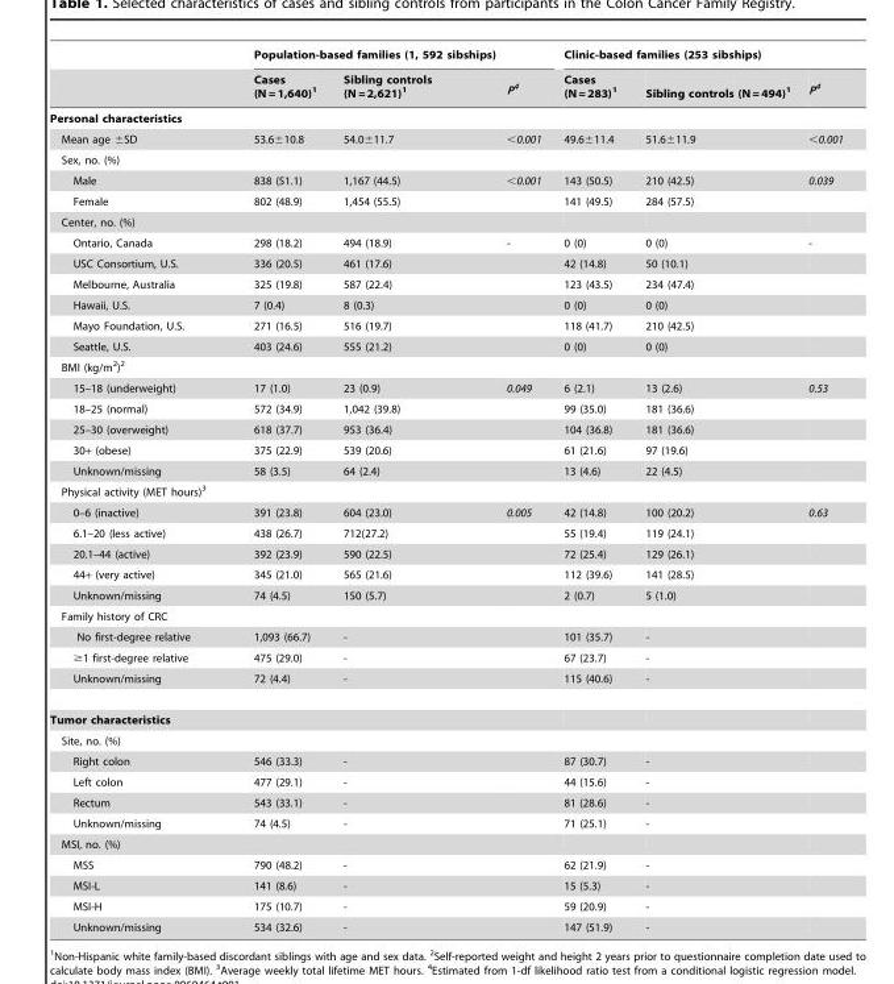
<table><thead><tr><td rowspan="2"></td><td colspan="3">Population-based families (1, 592 sibships)</td><td colspan="3">Clinic-based families (253 sibships)</td></tr><tr><td>Cases (N = 1,640)<sup>1</sup></td><td>Sibling controls (N = 2,621)<sup>1</sup></td><td>P<sup>4</sup></td><td>Cases (N = 283)<sup>1</sup></td><td>Sibling controls (N = 494)<sup>1</sup></td><td>P<sup>4</sup></td></tr></thead><tbody><tr><td colspan="7">Personal characteristics</td></tr><tr><td>Mean age ±SD</td><td>53.6±10.8</td><td>54.0±11.7</td><td>&lt;0.001</td><td>49.6±11.4</td><td>51.6±11.9</td><td>&lt;0.001</td></tr><tr><td colspan="7">Sex, no. (%)</td></tr><tr><td>Male</td><td>838 (51.1)</td><td>1,167 (44.5)</td><td>&lt;0.001</td><td>143 (50.5)</td><td>210 (42.5)</td><td>0.039</td></tr><tr><td>Female</td><td>802 (48.9)</td><td>1,454 (55.5)</td><td></td><td>141 (49.5)</td><td>284 (57.5)</td><td></td></tr><tr><td colspan="7">Center, no. (%)</td></tr><tr><td>Ontario, Canada</td><td>298 (18.2)</td><td>494 (18.9)</td><td>-</td><td>0 (0)</td><td>0 (0)</td><td>-</td></tr><tr><td>USC Consortium, U.S.</td><td>336 (20.5)</td><td>461 (17.6)</td><td></td><td>42 (14.8)</td><td>50 (10.1)</td><td></td></tr><tr><td>Melbourne, Australia</td><td>325 (19.8)</td><td>587 (22.4)</td><td></td><td>123 (43.5)</td><td>234 (47.4)</td><td></td></tr><tr><td>Hawaii, U.S.</td><td>7 (0.4)</td><td>8 (0.3)</td><td></td><td>0 (0)</td><td>0 (0)</td><td></td></tr><tr><td>Mayo Foundation, U.S.</td><td>271 (16.5)</td><td>516 (19.7)</td><td></td><td>118 (41.7)</td><td>210 (42.5)</td><td></td></tr><tr><td>Seattle, U.S.</td><td>403 (24.6)</td><td>555 (21.2)</td><td></td><td>0 (0)</td><td>0 (0)</td><td></td></tr><tr><td colspan="7">BMI (kg/m<sup>2</sup>)<sup>2</sup></td></tr><tr><td>15–18 (underweight)</td><td>17 (1.0)</td><td>23 (0.9)</td><td>0.049</td><td>6 (2.1)</td><td>13 (2.6)</td><td>0.53</td></tr><tr><td>18–25 (normal)</td><td>572 (34.9)</td><td>1,042 (39.8)</td><td></td><td>99 (35.0)</td><td>181 (36.6)</td><td></td></tr><tr><td>25–30 (overweight)</td><td>618 (37.7)</td><td>953 (36.4)</td><td></td><td>104 (36.8)</td><td>181 (36.6)</td><td></td></tr><tr><td>30+ (obese)</td><td>375 (22.9)</td><td>539 (20.6)</td><td></td><td>61 (21.6)</td><td>97 (19.6)</td><td></td></tr><tr><td>Unknown/missing</td><td>58 (3.5)</td><td>64 (2.4)</td><td></td><td>13 (4.6)</td><td>22 (4.5)</td><td></td></tr><tr><td colspan="7">Physical activity (MET hours)<sup>3</sup></td></tr><tr><td>0–6 (inactive)</td><td>391 (23.8)</td><td>604 (23.0)</td><td>0.005</td><td>42 (14.8)</td><td>100 (20.2)</td><td>0.63</td></tr><tr><td>6.1–20 (less active)</td><td>438 (26.7)</td><td>712(27.2)</td><td></td><td>55 (19.4)</td><td>119 (24.1)</td><td></td></tr><tr><td>20.1–44 (active)</td><td>392 (23.9)</td><td>590 (22.5)</td><td></td><td>72 (25.4)</td><td>129 (26.1)</td><td></td></tr><tr><td>44+ (very active)</td><td>345 (21.0)</td><td>565 (21.6)</td><td></td><td>112 (39.6)</td><td>141 (28.5)</td><td></td></tr><tr><td>Unknown/missing</td><td>74 (4.5)</td><td>150 (5.7)</td><td></td><td>2 (0.7)</td><td>5 (1.0)</td><td></td></tr><tr><td colspan="7">Family history of CRC</td></tr><tr><td>No first-degree relative</td><td>1,093 (66.7)</td><td>-</td><td></td><td>101 (35.7)</td><td>-</td><td></td></tr><tr><td>≥1 first-degree relative</td><td>475 (29.0)</td><td>-</td><td></td><td>67 (23.7)</td><td>-</td><td></td></tr><tr><td>Unknown/missing</td><td>72 (4.4)</td><td>-</td><td></td><td>115 (40.6)</td><td>-</td><td></td></tr><tr><td colspan="7">Tumor characteristics</td></tr><tr><td colspan="7">Site, no. (%)</td></tr><tr><td>Right colon</td><td>546 (33.3)</td><td>-</td><td></td><td>87 (30.7)</td><td>-</td><td></td></tr><tr><td>Left colon</td><td>477 (29.1)</td><td>-</td><td></td><td>44 (15.6)</td><td>-</td><td></td></tr><tr><td>Rectum</td><td>543 (33.1)</td><td>-</td><td></td><td>81 (28.6)</td><td>-</td><td></td></tr><tr><td>Unknown/missing</td><td>74 (4.5)</td><td>-</td><td></td><td>71 (25.1)</td><td>-</td><td></td></tr><tr><td colspan="7">MSI, no. (%)</td></tr><tr><td>MSS</td><td>790 (48.2)</td><td>-</td><td></td><td>62 (21.9)</td><td>-</td><td></td></tr><tr><td>MSI-L</td><td>141 (8.6)</td><td>-</td><td></td><td>15 (5.3)</td><td>-</td><td></td></tr><tr><td>MSI-H</td><td>175 (10.7)</td><td>-</td><td></td><td>59 (20.9)</td><td>-</td><td></td></tr><tr><td>Unknown/missing</td><td>534 (32.6)</td><td>-</td><td></td><td>147 (51.9)</td><td>-</td><td></td></tr></tbody></table>